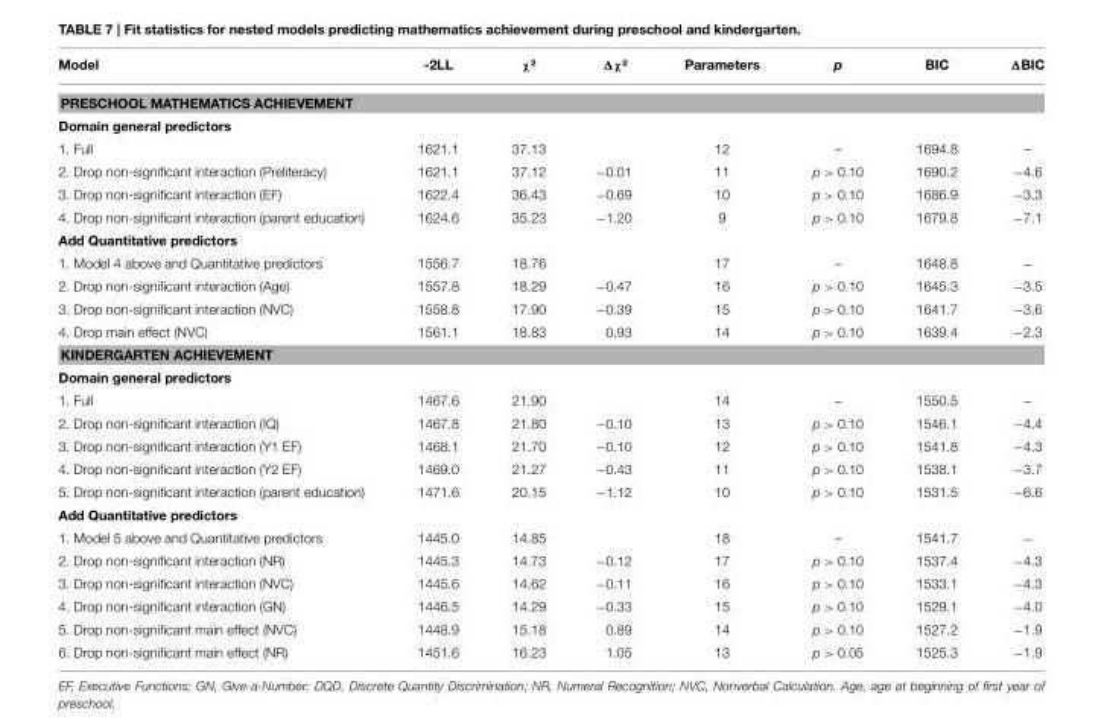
<table><thead><tr><td>Model</td><td>-2LL</td><td>χ²</td><td>Δχ²</td><td>Parameters</td><td>p</td><td>BIC</td><td>ΔBIC</td></tr></thead><tbody><tr><td colspan="8">PRESCHOOL MATHEMATICS ACHIEVEMENT</td></tr><tr><td colspan="8">Domain general predictors</td></tr><tr><td>1. Full</td><td>1621.1</td><td>37.13</td><td></td><td>12</td><td>–</td><td>1694.8</td><td>–</td></tr><tr><td>2. Drop non-significant interaction (Preliteracy)</td><td>1621.1</td><td>37.12</td><td>−0.01</td><td>11</td><td>p &gt; 0.10</td><td>1690.2</td><td>−4.6</td></tr><tr><td>3. Drop non-significant interaction (EF)</td><td>1622.4</td><td>36.43</td><td>−0.69</td><td>10</td><td>p &gt; 0.10</td><td>1686.9</td><td>−3.3</td></tr><tr><td>4. Drop non-significant interaction (parent education)</td><td>1624.6</td><td>35.23</td><td>−1.20</td><td>9</td><td>p &gt; 0.10</td><td>1679.8</td><td>−7.1</td></tr><tr><td colspan="8">Add Quantitative predictors</td></tr><tr><td>1. Model 4 above and Quantitative predictors</td><td>1556.7</td><td>18.76</td><td></td><td>17</td><td>–</td><td>1648.8</td><td>−</td></tr><tr><td>2. Drop non-significant interaction (Age)</td><td>1557.8</td><td>18.29</td><td>−0.47</td><td>16</td><td>p &gt; 0.10</td><td>1645.3</td><td>−3.5</td></tr><tr><td>3. Drop non-significant interaction (NVC)</td><td>1558.8</td><td>17.90</td><td>−0.39</td><td>15</td><td>p &gt; 0.10</td><td>1641.7</td><td>−3.6</td></tr><tr><td>4. Drop main effect (NVC)</td><td>1561.1</td><td>18.83</td><td>0.93</td><td>14</td><td>p &gt; 0.10</td><td>1639.4</td><td>−2.3</td></tr><tr><td colspan="8">KINDERGARTEN ACHIEVEMENT</td></tr><tr><td colspan="8">Domain general predictors</td></tr><tr><td>1. Full</td><td>1467.6</td><td>21.90</td><td></td><td>14</td><td>–</td><td>1550.5</td><td>–</td></tr><tr><td>2. Drop non-significant interaction (IQ)</td><td>1467.8</td><td>21.80</td><td>−0.10</td><td>13</td><td>p &gt; 0.10</td><td>1546.1</td><td>−4.4</td></tr><tr><td>3. Drop non-significant interaction (Y1 EF)</td><td>1468.1</td><td>21.70</td><td>−0.10</td><td>12</td><td>p &gt; 0.10</td><td>1541.8</td><td>−4.3</td></tr><tr><td>4. Drop non-significant interaction (Y2 EF)</td><td>1469.0</td><td>21.27</td><td>−0.43</td><td>11</td><td>p &gt; 0.10</td><td>1538.1</td><td>−3.7</td></tr><tr><td>5. Drop non-significant interaction (parent education)</td><td>1471.6</td><td>20.15</td><td>−1.12</td><td>10</td><td>p &gt; 0.10</td><td>1531.5</td><td>−6.6</td></tr><tr><td colspan="8">Add Quantitative predictors</td></tr><tr><td>1. Model 5 above and Quantitative predictors</td><td>1445.0</td><td>14.85</td><td></td><td>18</td><td>–</td><td>1541.7</td><td>−</td></tr><tr><td>2. Drop non-significant interaction (NR)</td><td>1445.3</td><td>14.73</td><td>−0.12</td><td>17</td><td>p &gt; 0.10</td><td>1537.4</td><td>−4.3</td></tr><tr><td>3. Drop non-significant interaction (NVC)</td><td>1445.6</td><td>14.62</td><td>−0.11</td><td>16</td><td>p &gt; 0.10</td><td>1533.1</td><td>−4.3</td></tr><tr><td>4. Drop non-significant interaction (GN)</td><td>1446.5</td><td>14.29</td><td>−0.33</td><td>15</td><td>p &gt; 0.10</td><td>1529.1</td><td>−4.0</td></tr><tr><td>5. Drop non-significant main effect (NVC)</td><td>1448.9</td><td>15.18</td><td>0.89</td><td>14</td><td>p &gt; 0.10</td><td>1527.2</td><td>−1.9</td></tr><tr><td>6. Drop non-significant main effect (NR)</td><td>1451.6</td><td>16.23</td><td>1.05</td><td>13</td><td>p &gt; 0.05</td><td>1525.3</td><td>−1.9</td></tr></tbody></table>